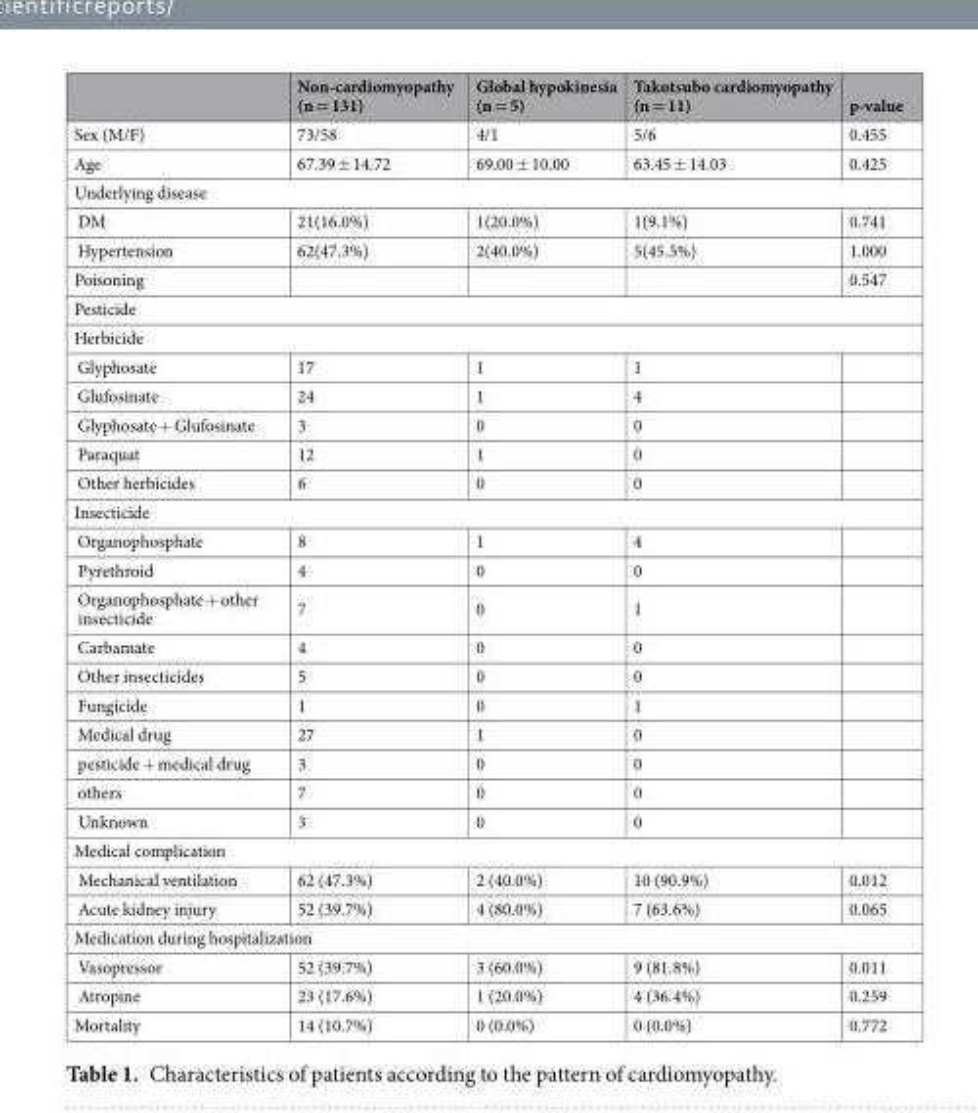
<table><thead><tr><td></td><td>Non-cardiomyopathy (n = 131)</td><td>Global hypokinesia (n = 5)</td><td>Takotsubo cardiomyopathy (n = 11)</td><td>p-value</td></tr></thead><tbody><tr><td>Sex (M/F)</td><td>73/58</td><td>4/1</td><td>5/6</td><td>0.455</td></tr><tr><td>Age</td><td>67.39 ± 14.72</td><td>69.00 ± 10.00</td><td>63.45 ± 14.03</td><td>0.425</td></tr><tr><td colspan="5">Underlying disease</td></tr><tr><td>DM</td><td>21(16.0%)</td><td>1(20.0%)</td><td>1(9.1%)</td><td>0.741</td></tr><tr><td>Hypertension</td><td>62(47.3%)</td><td>2(40.0%)</td><td>5(45.5%)</td><td>1.000</td></tr><tr><td>Poisoning</td><td></td><td></td><td></td><td>0.547</td></tr><tr><td colspan="5">Pesticide</td></tr><tr><td colspan="5">Herbicide</td></tr><tr><td>Glyphosate</td><td>17</td><td>1</td><td>1</td><td></td></tr><tr><td>Glufosinate</td><td>24</td><td>1</td><td>4</td><td></td></tr><tr><td>Glyphosate + Glufosinate</td><td>3</td><td>0</td><td>0</td><td></td></tr><tr><td>Paraquat</td><td>12</td><td>1</td><td>0</td><td></td></tr><tr><td>Other herbicides</td><td>6</td><td>0</td><td>0</td><td></td></tr><tr><td colspan="5">Insecticide</td></tr><tr><td>Organophosphate</td><td>8</td><td>1</td><td>4</td><td></td></tr><tr><td>Pyrethroid</td><td>4</td><td>0</td><td>0</td><td></td></tr><tr><td>Organophosphate + other insecticide</td><td>7</td><td>0</td><td>1</td><td></td></tr><tr><td>Carbamate</td><td>4</td><td>0</td><td>0</td><td></td></tr><tr><td>Other insecticides</td><td>5</td><td>0</td><td>0</td><td></td></tr><tr><td>Fungicide</td><td>1</td><td>0</td><td>1</td><td></td></tr><tr><td>Medical drug</td><td>27</td><td>1</td><td>0</td><td></td></tr><tr><td>pesticide + medical drug</td><td>3</td><td>0</td><td>0</td><td></td></tr><tr><td>others</td><td>7</td><td>0</td><td>0</td><td></td></tr><tr><td>Unknown</td><td>3</td><td>0</td><td>0</td><td></td></tr><tr><td colspan="5">Medical complication</td></tr><tr><td>Mechanical ventilation</td><td>62 (47.3%)</td><td>2 (40.0%)</td><td>10 (90.9%)</td><td>0.012</td></tr><tr><td>Acute kidney injury</td><td>52 (39.7%)</td><td>4 (80.0%)</td><td>7 (63.6%)</td><td>0.065</td></tr><tr><td colspan="5">Medication during hospitalization</td></tr><tr><td>Vasopressor</td><td>52 (39.7%)</td><td>3 (60.0%)</td><td>9 (81.8%)</td><td>0.011</td></tr><tr><td>Atropine</td><td>23 (17.6%)</td><td>1 (20.0%)</td><td>4 (36.4%)</td><td>0.259</td></tr><tr><td>Mortality</td><td>14 (10.7%)</td><td>0 (0.0%)</td><td>0 (0.0%)</td><td>0.772</td></tr></tbody></table>